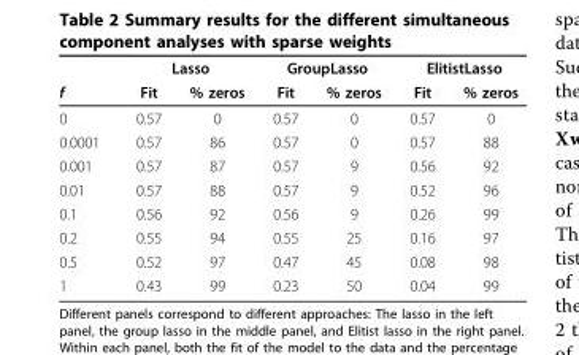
<table><thead><tr><td rowspan="2">f</td><td colspan="2">Lasso</td><td colspan="2">GroupLasso</td><td colspan="2">ElitistLasso</td></tr><tr><td>Fit</td><td>% zeros</td><td>Fit</td><td>% zeros</td><td>Fit</td><td>% zeros</td></tr></thead><tbody><tr><td>0</td><td>0.57</td><td>0</td><td>0.57</td><td>0</td><td>0.57</td><td>0</td></tr><tr><td>0.0001</td><td>0.57</td><td>86</td><td>0.57</td><td>0</td><td>0.57</td><td>88</td></tr><tr><td>0.001</td><td>0.57</td><td>87</td><td>0.57</td><td>9</td><td>0.56</td><td>92</td></tr><tr><td>0.01</td><td>0.57</td><td>88</td><td>0.57</td><td>9</td><td>0.52</td><td>96</td></tr><tr><td>0.1</td><td>0.56</td><td>92</td><td>0.56</td><td>9</td><td>0.26</td><td>99</td></tr><tr><td>0.2</td><td>0.55</td><td>94</td><td>0.55</td><td>25</td><td>0.16</td><td>97</td></tr><tr><td>0.5</td><td>0.52</td><td>97</td><td>0.47</td><td>45</td><td>0.08</td><td>98</td></tr><tr><td>1</td><td>0.43</td><td>99</td><td>0.23</td><td>50</td><td>0.04</td><td>99</td></tr></tbody></table>